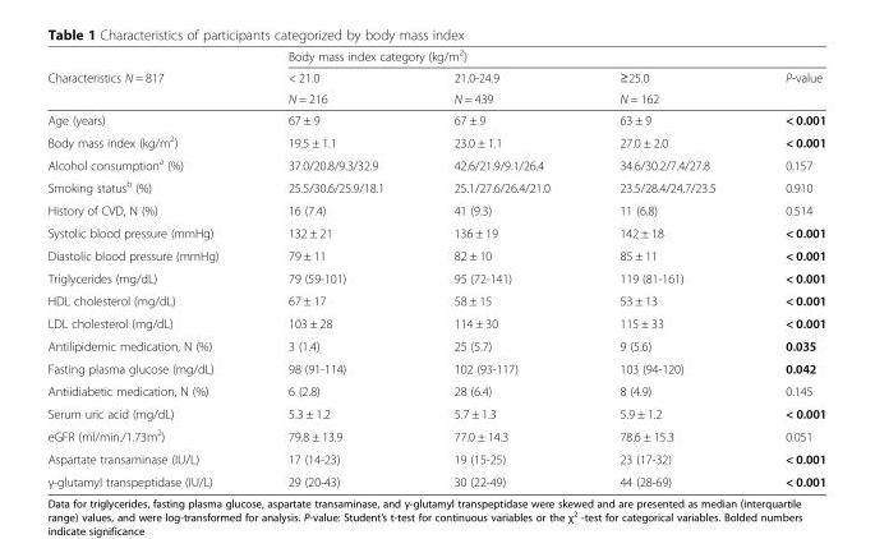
<table><thead><tr><td rowspan="3">Characteristics N = 817</td><td colspan="4">Body mass index category (kg/m<sup>2</sup>)</td></tr><tr><td rowspan="2">&lt; 21.0 N = 216</td><td rowspan="2">21.0-24.9 N = 439</td><td rowspan="2">≥25.0 N = 162</td><td rowspan="2">P-value</td></tr><tr></tr></thead><tbody><tr><td>Age (years)</td><td>67 ± 9</td><td>67 ± 9</td><td>63 ± 9</td><td>&lt; 0.001</td></tr><tr><td>Body mass index (kg/m<sup>2</sup>)</td><td>19.5 ± 1.1</td><td>23.0 ± 1.1</td><td>27.0 ± 2.0</td><td>&lt; 0.001</td></tr><tr><td>Alcohol consumption<sup>a</sup> (%)</td><td>37.0/20.8/9.3/32.9</td><td>42.6/21.9/9.1/26.4</td><td>34.6/30.2/7.4/27.8</td><td>0.157</td></tr><tr><td>Smoking status<sup>b</sup> (%)</td><td>25.5/30.6/25.9/18.1</td><td>25.1/27.6/26.4/21.0</td><td>23.5/28.4/24.7/23.5</td><td>0.910</td></tr><tr><td>History of CVD, N (%)</td><td>16 (7.4)</td><td>41 (9.3)</td><td>11 (6.8)</td><td>0.514</td></tr><tr><td>Systolic blood pressure (mmHg)</td><td>132 ± 21</td><td>136 ± 19</td><td>142 ± 18</td><td>&lt; 0.001</td></tr><tr><td>Diastolic blood pressure (mmHg)</td><td>79 ± 11</td><td>82 ± 10</td><td>85 ± 11</td><td>&lt; 0.001</td></tr><tr><td>Triglycerides (mg/dL)</td><td>79 (59-101)</td><td>95 (72-141)</td><td>119 (81-161)</td><td>&lt; 0.001</td></tr><tr><td>HDL cholesterol (mg/dL)</td><td>67 ± 17</td><td>58 ± 15</td><td>53 ± 13</td><td>&lt; 0.001</td></tr><tr><td>LDL cholesterol (mg/dL)</td><td>103 ± 28</td><td>114 ± 30</td><td>115 ± 33</td><td>&lt; 0.001</td></tr><tr><td>Antilipidemic medication, N (%)</td><td>3 (1.4)</td><td>25 (5.7)</td><td>9 (5.6)</td><td>0.035</td></tr><tr><td>Fasting plasma glucose (mg/dL)</td><td>98 (91-114)</td><td>102 (93-117)</td><td>103 (94-120)</td><td>0.042</td></tr><tr><td>Antiidiabetic medication, N (%)</td><td>6 (2.8)</td><td>28 (6.4)</td><td>8 (4.9)</td><td>0.145</td></tr><tr><td>Serum uric acid (mg/dL)</td><td>5.3 ± 1.2</td><td>5.7 ± 1.3</td><td>5.9 ± 1.2</td><td>&lt; 0.001</td></tr><tr><td>eGFR (ml/min./1.73m<sup>2</sup>)</td><td>79.8 ± 13.9</td><td>77.0 ± 14.3</td><td>78.6 ± 15.3</td><td>0.051</td></tr><tr><td>Aspartate transaminase (IU/L)</td><td>17 (14-23)</td><td>19 (15-25)</td><td>23 (17-32)</td><td>&lt; 0.001</td></tr><tr><td>γ-glutamyl transpeptidase (IU/L)</td><td>29 (20-43)</td><td>30 (22-49)</td><td>44 (28-69)</td><td>&lt; 0.001</td></tr></tbody></table>